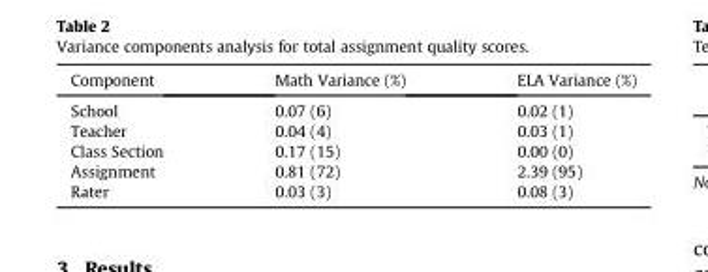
<table><thead><tr><td>Component</td><td>Math Variance (%)</td><td>ELA Variance (%)</td></tr></thead><tbody><tr><td>School</td><td>0.07 (6)</td><td>0.02 (1)</td></tr><tr><td>Teacher</td><td>0.04 (4)</td><td>0.03 (1)</td></tr><tr><td>Class Section</td><td>0.17 (15)</td><td>0.00 (0)</td></tr><tr><td>Assignment</td><td>0.81 (72)</td><td>2.39 (95)</td></tr><tr><td>Rater</td><td>0.03 (3)</td><td>0.08 (3)</td></tr></tbody></table>